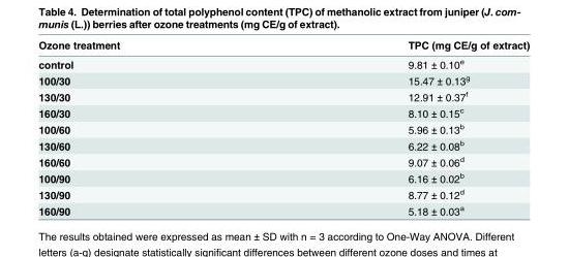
<table><thead><tr><td>Ozone treatment</td><td>TPC (mg CE/g of extract)</td></tr></thead><tbody><tr><td>control</td><td>9.81 ± 0.10<sup>e</sup></td></tr><tr><td>100/30</td><td>15.47 ± 0.13<sup>g</sup></td></tr><tr><td>130/30</td><td>12.91 ± 0.37<sup>f</sup></td></tr><tr><td>160/30</td><td>8.10 ± 0.15<sup>c</sup></td></tr><tr><td>100/60</td><td>5.96 ± 0.13<sup>b</sup></td></tr><tr><td>130/60</td><td>6.22 ± 0.08<sup>b</sup></td></tr><tr><td>160/60</td><td>9.07 ± 0.06<sup>d</sup></td></tr><tr><td>100/90</td><td>6.16 ± 0.02<sup>b</sup></td></tr><tr><td>130/90</td><td>8.77 ± 0.12<sup>d</sup></td></tr><tr><td>160/90</td><td>5.18 ± 0.03<sup>a</sup></td></tr></tbody></table>